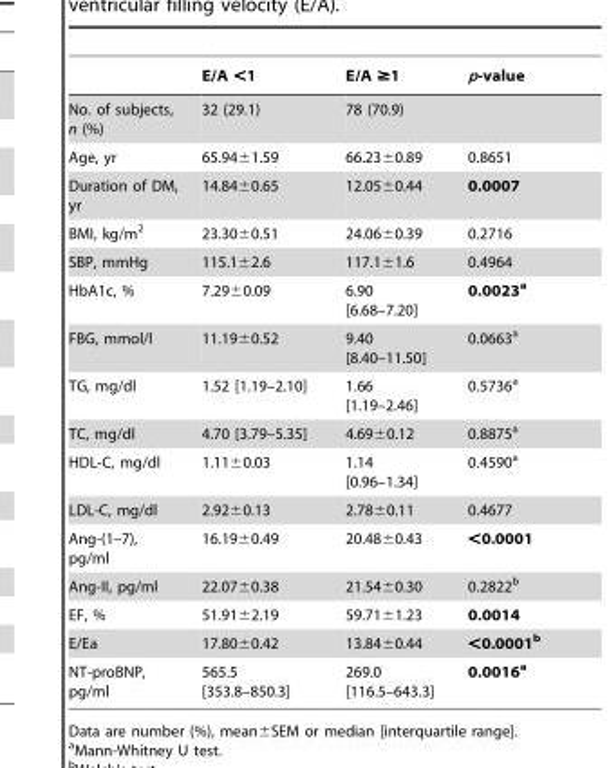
<table><thead><tr><td></td><td>E/A &lt;1</td><td>E/A ≥1</td><td>p-value</td></tr></thead><tbody><tr><td>No. of subjects, n (%)</td><td>32 (29.1)</td><td>78 (70.9)</td><td></td></tr><tr><td>Age, yr</td><td>65.94±1.59</td><td>66.23±0.89</td><td>0.8651</td></tr><tr><td>Duration of DM, yr</td><td>14.84±0.65</td><td>12.05±0.44</td><td>0.0007</td></tr><tr><td>BMI, kg/m<sup>2</sup></td><td>23.30±0.51</td><td>24.06±0.39</td><td>0.2716</td></tr><tr><td>SBP, mmHg</td><td>115.1±2.6</td><td>117.1±1.6</td><td>0.4964</td></tr><tr><td>HbA1c, %</td><td>7.29±0.09</td><td>6.90 [6.68–7.20]</td><td>0.0023a</td></tr><tr><td>FBG, mmol/l</td><td>11.19±0.52</td><td>9.40 [8.40–11.50]</td><td>0.0663<sup>a</sup></td></tr><tr><td>TG, mg/dl</td><td>1.52 [1.19–2.10]</td><td>1.66 [1.19–2.46]</td><td>0.5736<sup>a</sup></td></tr><tr><td>TC, mg/dl</td><td>4.70 [3.79–5.35]</td><td>4.69±0.12</td><td>0.8875<sup>a</sup></td></tr><tr><td>HDL-C, mg/dl</td><td>1.11±0.03</td><td>1.14 [0.96–1.34]</td><td>0.4590<sup>a</sup></td></tr><tr><td>LDL-C, mg/dl</td><td>2.92±0.13</td><td>2.78±0.11</td><td>0.4677</td></tr><tr><td>Ang-(1–7), pg/ml</td><td>16.19±0.49</td><td>20.48±0.43</td><td>&lt;0.0001</td></tr><tr><td>Ang-II, pg/ml</td><td>22.07±0.38</td><td>21.54±0.30</td><td>0.2822<sup>b</sup></td></tr><tr><td>EF, %</td><td>51.91±2.19</td><td>59.71±1.23</td><td>0.0014</td></tr><tr><td>E/Ea</td><td>17.80±0.42</td><td>13.84±0.44</td><td>&lt;0.0001b</td></tr><tr><td>NT-proBNP, pg/ml</td><td>565.5 [353.8–850.3]</td><td>269.0 [116.5–643.3]</td><td>0.0016a</td></tr></tbody></table>